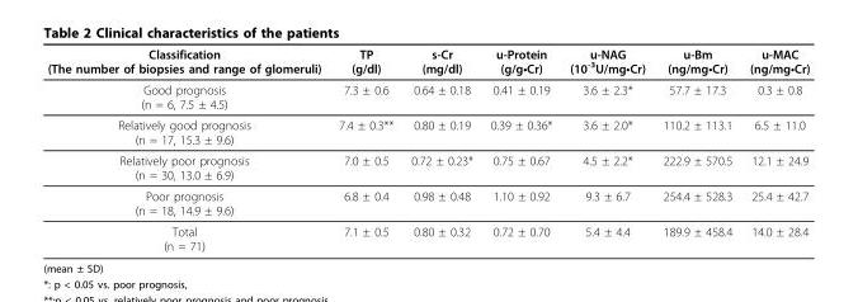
<table><thead><tr><td>Classification (The number of biopsies and range of glomeruli)</td><td>TP (g/dl)</td><td>s-Cr (mg/dl)</td><td>u-Protein (g/g•Cr)</td><td>u-NAG (10<sup>-3</sup>U/mg•Cr)</td><td>u-Bm (ng/mg•Cr)</td><td>u-MAC (ng/mg•Cr)</td></tr></thead><tbody><tr><td>Good prognosis (n = 6, 7.5 ± 4.5)</td><td>7.3 ± 0.6</td><td>0.64 ± 0.18</td><td>0.41 ± 0.19</td><td>3.6 ± 2.3*</td><td>57.7 ± 17.3</td><td>0.3 ± 0.8</td></tr><tr><td>Relatively good prognosis (n = 17, 15.3 ± 9.6)</td><td>7.4 ± 0.3**</td><td>0.80 ± 0.19</td><td>0.39 ± 0.36*</td><td>3.6 ± 2.0*</td><td>110.2 ± 113.1</td><td>6.5 ± 11.0</td></tr><tr><td>Relatively poor prognosis (n = 30, 13.0 ± 6.9)</td><td>7.0 ± 0.5</td><td>0.72 ± 0.23*</td><td>0.75 ± 0.67</td><td>4.5 ± 2.2*</td><td>222.9 ± 570.5</td><td>12.1 ± 24.9</td></tr><tr><td>Poor prognosis (n = 18, 14.9 ± 9.6)</td><td>6.8 ± 0.4</td><td>0.98 ± 0.48</td><td>1.10 ± 0.92</td><td>9.3 ± 6.7</td><td>254.4 ± 528.3</td><td>25.4 ± 42.7</td></tr><tr><td>Total (n = 71)</td><td>7.1 ± 0.5</td><td>0.80 ± 0.32</td><td>0.72 ± 0.70</td><td>5.4 ± 4.4</td><td>189.9 ± 458.4</td><td>14.0 ± 28.4</td></tr></tbody></table>